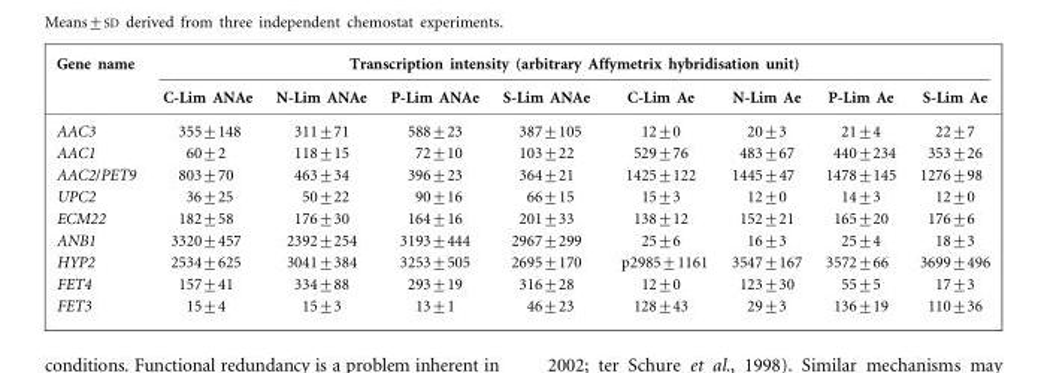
<table><thead><tr><td rowspan="2">Gene name</td><td colspan="8">Transcription intensity (arbitrary Affymetrix hybridisation unit)</td></tr><tr><td>C-Lim ANAe</td><td>N-Lim ANAe</td><td>P-Lim ANAe</td><td>S-Lim ANAe</td><td>C-Lim Ae</td><td>N-Lim Ae</td><td>P-Lim Ae</td><td>S-Lim Ae</td></tr></thead><tbody><tr><td>AAC3</td><td>355±148</td><td>311±71</td><td>588±23</td><td>387±105</td><td>12±0</td><td>20±3</td><td>21±4</td><td>22±7</td></tr><tr><td>AAC1</td><td>60±2</td><td>118±15</td><td>72±10</td><td>103±22</td><td>529±76</td><td>483±67</td><td>440±234</td><td>353±26</td></tr><tr><td>AAC2/PET9</td><td>803±70</td><td>463±34</td><td>396±23</td><td>364±21</td><td>1425±122</td><td>1445±47</td><td>1478±145</td><td>1276±98</td></tr><tr><td>UPC2</td><td>36±25</td><td>50±22</td><td>90±16</td><td>66±15</td><td>15±3</td><td>12±0</td><td>14±3</td><td>12±0</td></tr><tr><td>ECM22</td><td>182±58</td><td>176±30</td><td>164±16</td><td>201±33</td><td>138±12</td><td>152±21</td><td>165±20</td><td>176±6</td></tr><tr><td>ANB1</td><td>3320±457</td><td>2392±254</td><td>3193±444</td><td>2967±299</td><td>25±6</td><td>16±3</td><td>25±4</td><td>18±3</td></tr><tr><td>HYP2</td><td>2534±625</td><td>3041±384</td><td>3253±505</td><td>2695±170</td><td>p2985±1161</td><td>3547±167</td><td>3572±66</td><td>3699±496</td></tr><tr><td>FET4</td><td>157±41</td><td>334±88</td><td>293±19</td><td>316±28</td><td>12±0</td><td>123±30</td><td>55±5</td><td>17±3</td></tr><tr><td>FET3</td><td>15±4</td><td>15±3</td><td>13±1</td><td>46±23</td><td>128±43</td><td>29±3</td><td>136±19</td><td>110±36</td></tr></tbody></table>